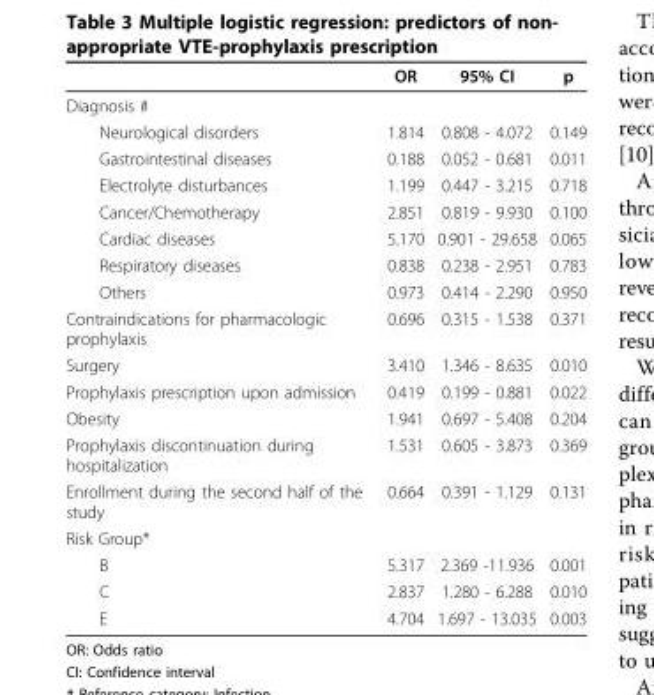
<table><thead><tr><td></td><td>OR</td><td>95% CI</td><td>p</td></tr></thead><tbody><tr><td colspan="4">Diagnosis #</td></tr><tr><td>Neurological disorders</td><td>1.814</td><td>0.808 - 4.072</td><td>0.149</td></tr><tr><td>Gastrointestinal diseases</td><td>0.188</td><td>0.052 - 0.681</td><td>0.011</td></tr><tr><td>Electrolyte disturbances</td><td>1.199</td><td>0.447 - 3.215</td><td>0.718</td></tr><tr><td>Cancer/Chemotherapy</td><td>2.851</td><td>0.819 - 9.930</td><td>0.100</td></tr><tr><td>Cardiac diseases</td><td>5.170</td><td>0.901 - 29.658</td><td>0.065</td></tr><tr><td>Respiratory diseases</td><td>0.838</td><td>0.238 - 2.951</td><td>0.783</td></tr><tr><td>Others</td><td>0.973</td><td>0.414 - 2.290</td><td>0.950</td></tr><tr><td>Contraindications for pharmacologic prophylaxis</td><td>0.696</td><td>0.315 - 1.538</td><td>0.371</td></tr><tr><td>Surgery</td><td>3.410</td><td>1.346 - 8.635</td><td>0.010</td></tr><tr><td>Prophylaxis prescription upon admission</td><td>0.419</td><td>0.199 - 0.881</td><td>0.022</td></tr><tr><td>Obesity</td><td>1.941</td><td>0.697 - 5.408</td><td>0.204</td></tr><tr><td>Prophylaxis discontinuation during hospitalization</td><td>1.531</td><td>0.605 - 3.873</td><td>0.369</td></tr><tr><td>Enrollment during the second half of the study</td><td>0.664</td><td>0.391 - 1.129</td><td>0.131</td></tr><tr><td colspan="4">Risk Group*</td></tr><tr><td>B</td><td>5.317</td><td>2.369 -11.936</td><td>0.001</td></tr><tr><td>C</td><td>2.837</td><td>1.280 - 6.288</td><td>0.010</td></tr><tr><td>E</td><td>4.704</td><td>1.697 - 13.035</td><td>0.003</td></tr></tbody></table>